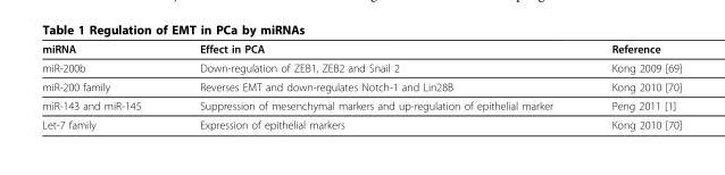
<table><thead><tr><td>miRNA</td><td>Effect in PCA</td><td>Reference</td></tr></thead><tbody><tr><td>miR-200b</td><td>Down-regulation of ZEB1, ZEB2 and Snail 2</td><td>Kong 2009 [69]</td></tr><tr><td>miR-200 family</td><td>Reverses EMT and down-regulates Notch-1 and Lin28B</td><td>Kong 2010 [70]</td></tr><tr><td>miR-143 and miR-145</td><td>Suppression of mesenchymal markers and up-regulation of epithelial marker</td><td>Peng 2011 [1]</td></tr><tr><td>Let-7 family</td><td>Expression of epithelial markers</td><td>Kong 2010 [70]</td></tr></tbody></table>